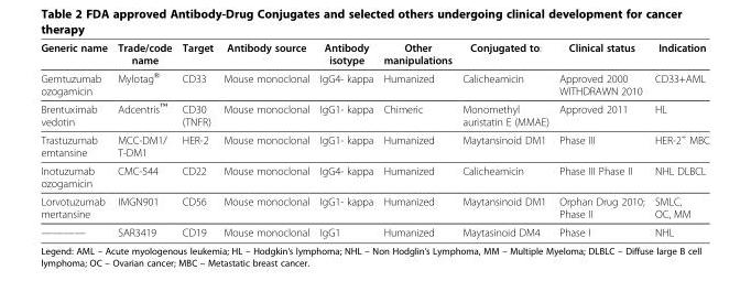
<table><thead><tr><td>Generic name</td><td>Trade/code name</td><td>Target</td><td>Antibody source</td><td>Antibody isotype</td><td>Other manipulations</td><td>Conjugated to:</td><td>Clinical status</td><td>Indication</td></tr></thead><tbody><tr><td>Gemtuzumab ozogamicin</td><td>Mylotag®</td><td>CD33</td><td>Mouse monoclonal</td><td>IgG4- kappa</td><td>Humanized</td><td>Calicheamicin</td><td>Approved 2000 WITHDRAWN 2010</td><td>CD33+AML</td></tr><tr><td>Brentuximab vedotin</td><td>Adcentris™</td><td>CD30 (TNFR)</td><td>Mouse monoclonal</td><td>IgG1- kappa</td><td>Chimeric</td><td>Monomethyl auristatin E (MMAE)</td><td>Approved 2011</td><td>HL</td></tr><tr><td>Trastuzumab emtansine</td><td>MCC-DM1/ T-DM1</td><td>HER-2</td><td>Mouse monoclonal</td><td>IgG1- kappa</td><td>Humanized</td><td>Maytansinoid DM1</td><td>Phase III</td><td>HER-2<sup>+</sup> MBC</td></tr><tr><td>Inotuzumab ozogamicin</td><td>CMC-544</td><td>CD22</td><td>Mouse monoclonal</td><td>IgG4- kappa</td><td>Humanized</td><td>Calicheamicin</td><td>Phase III Phase II</td><td>NHL DLBCL</td></tr><tr><td>Lorvotuzumab mertansine</td><td>IMGN901</td><td>CD56</td><td>Mouse monoclonal</td><td>IgG1- kappa</td><td>Humanized</td><td>Maytansinoid DM1</td><td>Orphan Drug 2010; Phase II</td><td>SMLC, OC, MM</td></tr><tr><td>————</td><td>SAR3419</td><td>CD19</td><td>Mouse monoclonal</td><td>IgG1</td><td>Humanized</td><td>Maytasinoid DM4</td><td>Phase I</td><td>NHL</td></tr></tbody></table>